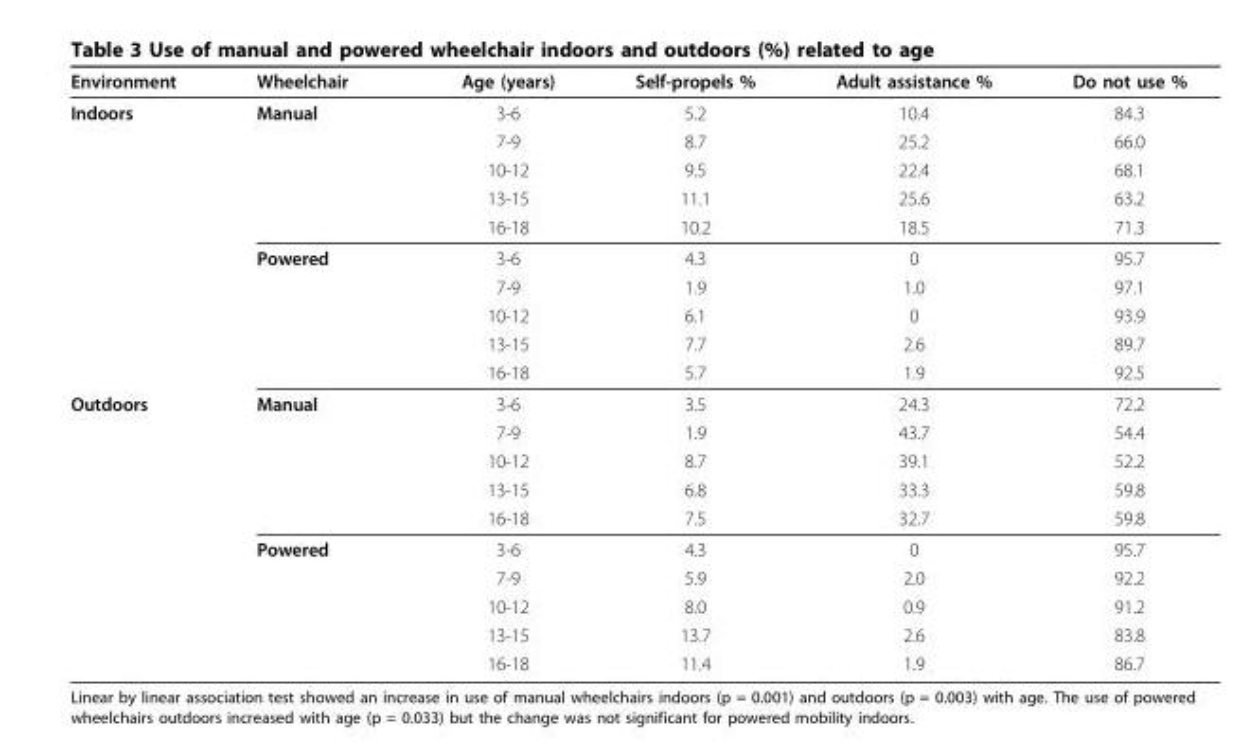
<table><thead><tr><td>Environment</td><td>Wheelchair</td><td>Age (years)</td><td>Self-propels %</td><td>Adult assistance %</td><td>Do not use %</td></tr></thead><tbody><tr><td rowspan="10">Indoors</td><td>Manual</td><td>3-6</td><td>5.2</td><td>10.4</td><td>84.3</td></tr><tr><td></td><td>7-9</td><td>8.7</td><td>25.2</td><td>66.0</td></tr><tr><td></td><td>10-12</td><td>9.5</td><td>22.4</td><td>68.1</td></tr><tr><td></td><td>13-15</td><td>11.1</td><td>25.6</td><td>63.2</td></tr><tr><td></td><td>16-18</td><td>10.2</td><td>18.5</td><td>71.3</td></tr><tr><td>Powered</td><td>3-6</td><td>4.3</td><td>0</td><td>95.7</td></tr><tr><td></td><td>7-9</td><td>1.9</td><td>1.0</td><td>97.1</td></tr><tr><td></td><td>10-12</td><td>6.1</td><td>0</td><td>93.9</td></tr><tr><td></td><td>13-15</td><td>7.7</td><td>2.6</td><td>89.7</td></tr><tr><td></td><td>16-18</td><td>5.7</td><td>1.9</td><td>92.5</td></tr><tr><td rowspan="10">Outdoors</td><td>Manual</td><td>3-6</td><td>3.5</td><td>24.3</td><td>72.2</td></tr><tr><td></td><td>7-9</td><td>1.9</td><td>43.7</td><td>54.4</td></tr><tr><td></td><td>10-12</td><td>8.7</td><td>39.1</td><td>52.2</td></tr><tr><td></td><td>13-15</td><td>6.8</td><td>33.3</td><td>59.8</td></tr><tr><td></td><td>16-18</td><td>7.5</td><td>32.7</td><td>59.8</td></tr><tr><td>Powered</td><td>3-6</td><td>4.3</td><td>0</td><td>95.7</td></tr><tr><td></td><td>7-9</td><td>5.9</td><td>2.0</td><td>92.2</td></tr><tr><td></td><td>10-12</td><td>8.0</td><td>0.9</td><td>91.2</td></tr><tr><td></td><td>13-15</td><td>13.7</td><td>2.6</td><td>83.8</td></tr><tr><td></td><td>16-18</td><td>11.4</td><td>1.9</td><td>86.7</td></tr></tbody></table>